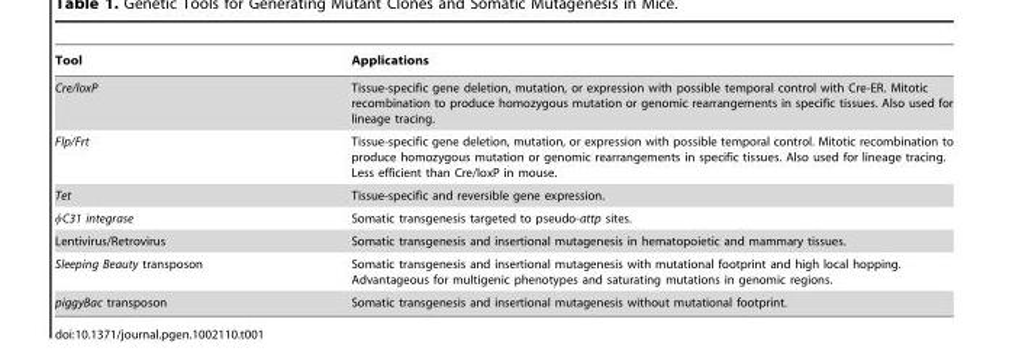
<table><thead><tr><td>Tool</td><td>Applications</td></tr></thead><tbody><tr><td>Cre/loxP</td><td>Tissue-specific gene deletion, mutation, or expression with possible temporal control with Cre-ER. Mitotic recombination to produce homozygous mutation or genomic rearrangements in specific tissues. Also used for lineage tracing.</td></tr><tr><td>Flp/Frt</td><td>Tissue-specific gene deletion, mutation, or expression with possible temporal control. Mitotic recombination to produce homozygous mutation or genomic rearrangements in specific tissues. Also used for lineage tracing. Less efficient than Cre/loxP in mouse.</td></tr><tr><td>Tet</td><td>Tissue-specific and reversible gene expression.</td></tr><tr><td>φC31 integrase</td><td>Somatic transgenesis targeted to pseudo-attp sites.</td></tr><tr><td>Lentivirus/Retrovirus</td><td>Somatic transgenesis and insertional mutagenesis in hematopoietic and mammary tissues.</td></tr><tr><td>Sleeping Beauty transposon</td><td>Somatic transgenesis and insertional mutagenesis with mutational footprint and high local hopping. Advantageous for multigenic phenotypes and saturating mutations in genomic regions.</td></tr><tr><td>piggyBac transposon</td><td>Somatic transgenesis and insertional mutagenesis without mutational footprint.</td></tr></tbody></table>